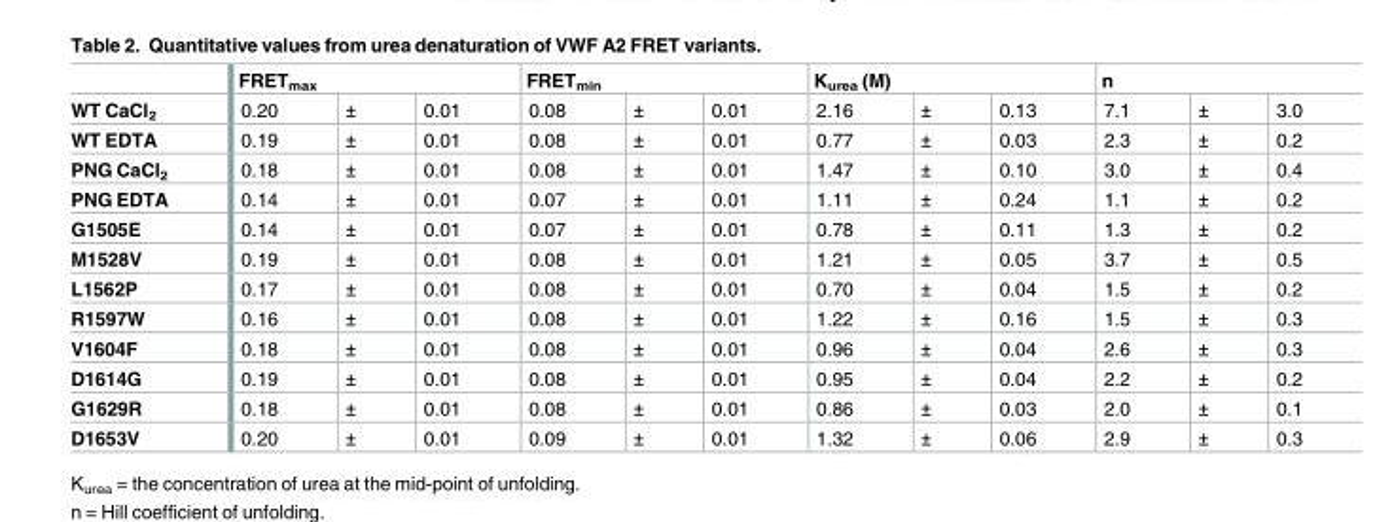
<table><thead><tr><td rowspan="2">WT CaCl<sub>2</sub></td><td colspan="3">FRET<sub>max</sub></td><td colspan="3">FRET<sub>min</sub></td><td colspan="3">K<sub>urea</sub> (M)</td><td colspan="3">n</td></tr><tr><td>0.20</td><td>±</td><td>0.01</td><td>0.08</td><td>±</td><td>0.01</td><td>2.16</td><td>±</td><td>0.13</td><td>7.1</td><td>±</td><td>3.0</td></tr></thead><tbody><tr><td>WT EDTA</td><td>0.19</td><td>±</td><td>0.01</td><td>0.08</td><td>±</td><td>0.01</td><td>0.77</td><td>±</td><td>0.03</td><td>2.3</td><td>±</td><td>0.2</td></tr><tr><td>PNG CaCl<sub>2</sub></td><td>0.18</td><td>±</td><td>0.01</td><td>0.08</td><td>±</td><td>0.01</td><td>1.47</td><td>±</td><td>0.10</td><td>3.0</td><td>±</td><td>0.4</td></tr><tr><td>PNG EDTA</td><td>0.14</td><td>±</td><td>0.01</td><td>0.07</td><td>±</td><td>0.01</td><td>1.11</td><td>±</td><td>0.24</td><td>1.1</td><td>±</td><td>0.2</td></tr><tr><td>G1505E</td><td>0.14</td><td>±</td><td>0.01</td><td>0.07</td><td>±</td><td>0.01</td><td>0.78</td><td>±</td><td>0.11</td><td>1.3</td><td>±</td><td>0.2</td></tr><tr><td>M1528V</td><td>0.19</td><td>±</td><td>0.01</td><td>0.08</td><td>±</td><td>0.01</td><td>1.21</td><td>±</td><td>0.05</td><td>3.7</td><td>±</td><td>0.5</td></tr><tr><td>L1562P</td><td>0.17</td><td>±</td><td>0.01</td><td>0.08</td><td>±</td><td>0.01</td><td>0.70</td><td>±</td><td>0.04</td><td>1.5</td><td>±</td><td>0.2</td></tr><tr><td>R1597W</td><td>0.16</td><td>±</td><td>0.01</td><td>0.08</td><td>±</td><td>0.01</td><td>1.22</td><td>±</td><td>0.16</td><td>1.5</td><td>±</td><td>0.3</td></tr><tr><td>V1604F</td><td>0.18</td><td>±</td><td>0.01</td><td>0.08</td><td>±</td><td>0.01</td><td>0.96</td><td>±</td><td>0.04</td><td>2.6</td><td>±</td><td>0.3</td></tr><tr><td>D1614G</td><td>0.19</td><td>±</td><td>0.01</td><td>0.08</td><td>±</td><td>0.01</td><td>0.95</td><td>±</td><td>0.04</td><td>2.2</td><td>±</td><td>0.2</td></tr><tr><td>G1629R</td><td>0.18</td><td>±</td><td>0.01</td><td>0.08</td><td>±</td><td>0.01</td><td>0.86</td><td>±</td><td>0.03</td><td>2.0</td><td>±</td><td>0.1</td></tr><tr><td>D1653V</td><td>0.20</td><td>±</td><td>0.01</td><td>0.09</td><td>±</td><td>0.01</td><td>1.32</td><td>±</td><td>0.06</td><td>2.9</td><td>±</td><td>0.3</td></tr></tbody></table>